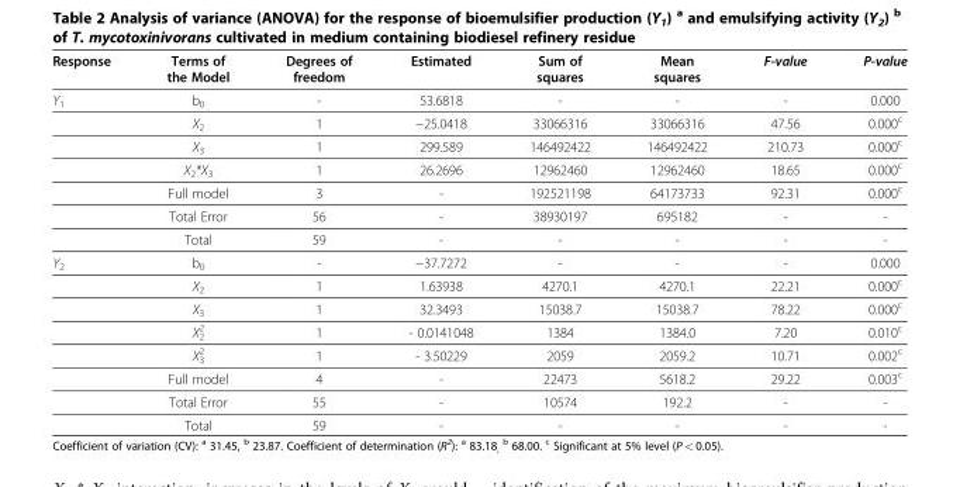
<table><thead><tr><td>Response</td><td>Terms of the Model</td><td>Degrees of freedom</td><td>Estimated</td><td>Sum of squares</td><td>Mean squares</td><td>F-value</td><td>P-value</td></tr></thead><tbody><tr><td rowspan="7">Y<sub>1</sub></td><td>b<sub>0</sub></td><td>-</td><td>53.6818</td><td>-</td><td>-</td><td>-</td><td>0.000</td></tr><tr><td>X<sub>2</sub></td><td>1</td><td>−25.0418</td><td>33066316</td><td>33066316</td><td>47.56</td><td>0.000<sup>c</sup></td></tr><tr><td>X<sub>3</sub></td><td>1</td><td>299.589</td><td>146492422</td><td>146492422</td><td>210.73</td><td>0.000<sup>c</sup></td></tr><tr><td>X<sub>2</sub>*X<sub>3</sub></td><td>1</td><td>26.2696</td><td>12962460</td><td>12962460</td><td>18.65</td><td>0.000<sup>c</sup></td></tr><tr><td>Full model</td><td>3</td><td>-</td><td>192521198</td><td>64173733</td><td>92.31</td><td>0.000<sup>c</sup></td></tr><tr><td>Total Error</td><td>56</td><td>-</td><td>38930197</td><td>695182</td><td>-</td><td>-</td></tr><tr><td>Total</td><td>59</td><td>-</td><td>-</td><td>-</td><td>-</td><td>-</td></tr><tr><td rowspan="8">Y<sub>2</sub></td><td>b<sub>0</sub></td><td>-</td><td>−37.7272</td><td>-</td><td>-</td><td>-</td><td>0.000</td></tr><tr><td>X<sub>2</sub></td><td>1</td><td>1.63938</td><td>4270.1</td><td>4270.1</td><td>22.21</td><td>0.000<sup>c</sup></td></tr><tr><td>X<sub>3</sub></td><td>1</td><td>32.3493</td><td>15038.7</td><td>15038.7</td><td>78.22</td><td>0.000<sup>c</sup></td></tr><tr><td>X<sub>2</sub> <sup>2</sup></td><td>1</td><td>- 0.0141048</td><td>1384</td><td>1384.0</td><td>7.20</td><td>0.010<sup>c</sup></td></tr><tr><td>X<sub>3</sub> <sup>2</sup></td><td>1</td><td>- 3.50229</td><td>2059</td><td>2059.2</td><td>10.71</td><td>0.002<sup>c</sup></td></tr><tr><td>Full model</td><td>4</td><td>-</td><td>22473</td><td>5618.2</td><td>29.22</td><td>0.003<sup>c</sup></td></tr><tr><td>Total Error</td><td>55</td><td>-</td><td>10574</td><td>192.2</td><td>-</td><td>-</td></tr><tr><td>Total</td><td>59</td><td>-</td><td>-</td><td>-</td><td>-</td><td>-</td></tr></tbody></table>